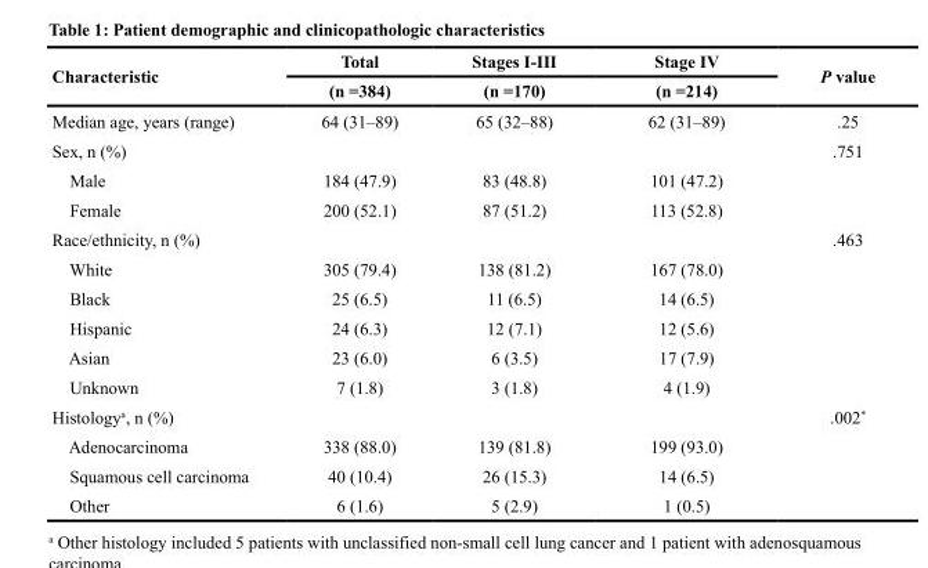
<table><thead><tr><td rowspan="2">Characteristic</td><td rowspan="2">Total (n =384)</td><td rowspan="2">Stages I-III (n =170)</td><td rowspan="2">Stage IV (n =214)</td><td rowspan="2">P value</td></tr><tr></tr></thead><tbody><tr><td>Median age, years (range)</td><td>64 (31–89)</td><td>65 (32–88)</td><td>62 (31–89)</td><td>.25</td></tr><tr><td>Sex, n (%)</td><td></td><td></td><td></td><td>.751</td></tr><tr><td>Male</td><td>184 (47.9)</td><td>83 (48.8)</td><td>101 (47.2)</td><td></td></tr><tr><td>Female</td><td>200 (52.1)</td><td>87 (51.2)</td><td>113 (52.8)</td><td></td></tr><tr><td>Race/ethnicity, n (%)</td><td></td><td></td><td></td><td>.463</td></tr><tr><td>White</td><td>305 (79.4)</td><td>138 (81.2)</td><td>167 (78.0)</td><td></td></tr><tr><td>Black</td><td>25 (6.5)</td><td>11 (6.5)</td><td>14 (6.5)</td><td></td></tr><tr><td>Hispanic</td><td>24 (6.3)</td><td>12 (7.1)</td><td>12 (5.6)</td><td></td></tr><tr><td>Asian</td><td>23 (6.0)</td><td>6 (3.5)</td><td>17 (7.9)</td><td></td></tr><tr><td>Unknown</td><td>7 (1.8)</td><td>3 (1.8)</td><td>4 (1.9)</td><td></td></tr><tr><td>Histology<sup>a</sup>, n (%)</td><td></td><td></td><td></td><td>.002*</td></tr><tr><td>Adenocarcinoma</td><td>338 (88.0)</td><td>139 (81.8)</td><td>199 (93.0)</td><td></td></tr><tr><td>Squamous cell carcinoma</td><td>40 (10.4)</td><td>26 (15.3)</td><td>14 (6.5)</td><td></td></tr><tr><td>Other</td><td>6 (1.6)</td><td>5 (2.9)</td><td>1 (0.5)</td><td></td></tr></tbody></table>